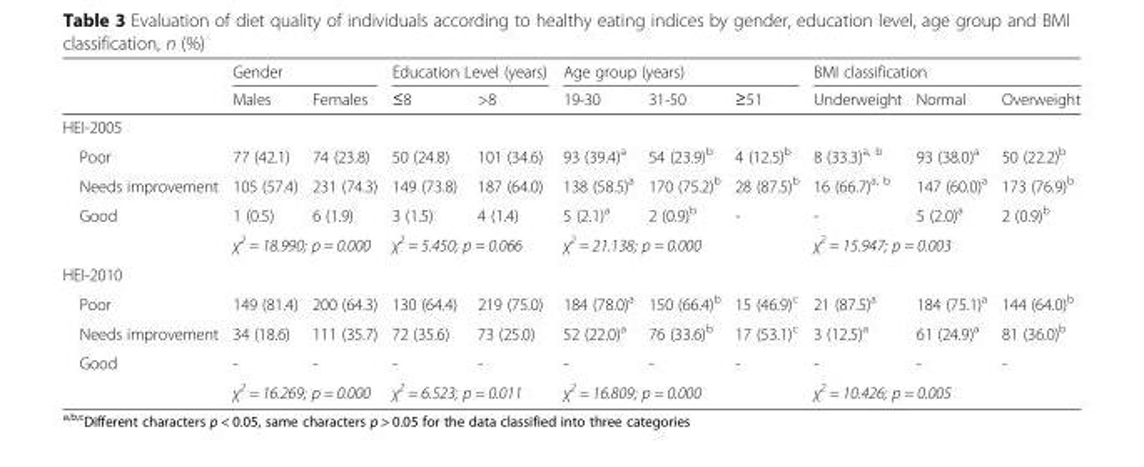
<table><thead><tr><td rowspan="2"></td><td colspan="2">Gender</td><td colspan="2">Education Level (years)</td><td colspan="3">Age group (years)</td><td colspan="3">BMI classification</td></tr><tr><td>Males</td><td>Females</td><td>≤8</td><td>&gt;8</td><td>19-30</td><td>31-50</td><td>≥51</td><td>Underweight</td><td>Normal</td><td>Overweight</td></tr></thead><tbody><tr><td colspan="11">HEI-2005</td></tr><tr><td>Poor</td><td>77 (42.1)</td><td>74 (23.8)</td><td>50 (24.8)</td><td>101 (34.6)</td><td>93 (39.4)<sup>a</sup></td><td>54 (23.9)<sup>b</sup></td><td>4 (12.5)<sup>b</sup></td><td>8 (33.3)<sup>a, b</sup></td><td>93 (38.0)<sup>a</sup></td><td>50 (22.2)<sup>b</sup></td></tr><tr><td>Needs improvement</td><td>105 (57.4)</td><td>231 (74.3)</td><td>149 (73.8)</td><td>187 (64.0)</td><td>138 (58.5)<sup>a</sup></td><td>170 (75.2)<sup>b</sup></td><td>28 (87.5)<sup>b</sup></td><td>16 (66.7)<sup>a, b</sup></td><td>147 (60.0)<sup>a</sup></td><td>173 (76.9)<sup>b</sup></td></tr><tr><td rowspan="2">Good</td><td>1 (0.5)</td><td>6 (1.9)</td><td>3 (1.5)</td><td>4 (1.4)</td><td>5 (2.1)<sup>a</sup></td><td>2 (0.9)<sup>b</sup></td><td>-</td><td>-</td><td>5 (2.0)<sup>a</sup></td><td>2 (0.9)<sup>b</sup></td></tr><tr><td colspan="2">χ<sup>2</sup> = 18.990; p = 0.000</td><td colspan="2">χ<sup>2</sup> = 5.450; p = 0.066</td><td colspan="3">χ<sup>2</sup> = 21.138; p = 0.000</td><td colspan="3">χ<sup>2</sup> = 15.947; p = 0.003</td></tr><tr><td colspan="11">HEI-2010</td></tr><tr><td>Poor</td><td>149 (81.4)</td><td>200 (64.3)</td><td>130 (64.4)</td><td>219 (75.0)</td><td>184 (78.0)<sup>a</sup></td><td>150 (66.4)<sup>b</sup></td><td>15 (46.9)<sup>c</sup></td><td>21 (87.5)<sup>a</sup></td><td>184 (75.1)<sup>a</sup></td><td>144 (64.0)<sup>b</sup></td></tr><tr><td>Needs improvement</td><td>34 (18.6)</td><td>111 (35.7)</td><td>72 (35.6)</td><td>73 (25.0)</td><td>52 (22.0)<sup>a</sup></td><td>76 (33.6)<sup>b</sup></td><td>17 (53.1)<sup>c</sup></td><td>3 (12.5)<sup>a</sup></td><td>61 (24.9)<sup>a</sup></td><td>81 (36.0)<sup>b</sup></td></tr><tr><td rowspan="2">Good</td><td>-</td><td>-</td><td>-</td><td>-</td><td>-</td><td>-</td><td>-</td><td>-</td><td>-</td><td>-</td></tr><tr><td colspan="2">χ<sup>2</sup> = 16.269; p = 0.000</td><td colspan="2">χ<sup>2</sup> = 6.523; p = 0.011</td><td colspan="3">χ<sup>2</sup> = 16.809; p = 0.000</td><td colspan="3">χ<sup>2</sup> = 10.426; p = 0.005</td></tr></tbody></table>